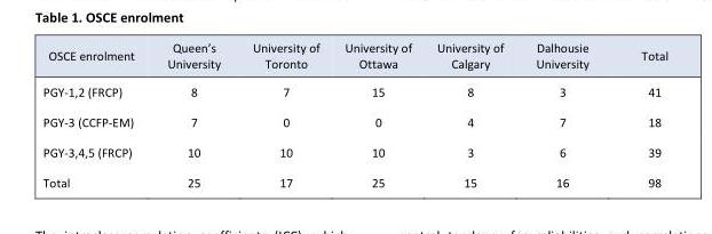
<table><thead><tr><td>OSCE enrolment</td><td>Queen’s University</td><td>University of Toronto</td><td>University of Ottawa</td><td>University of Calgary</td><td>Dalhousie University</td><td>Total</td></tr></thead><tbody><tr><td>PGY-1,2 (FRCP)</td><td>8</td><td>7</td><td>15</td><td>8</td><td>3</td><td>41</td></tr><tr><td>PGY-3 (CCFP-EM)</td><td>7</td><td>0</td><td>0</td><td>4</td><td>7</td><td>18</td></tr><tr><td>PGY-3,4,5 (FRCP)</td><td>10</td><td>10</td><td>10</td><td>3</td><td>6</td><td>39</td></tr><tr><td>Total</td><td>25</td><td>17</td><td>25</td><td>15</td><td>16</td><td>98</td></tr></tbody></table>